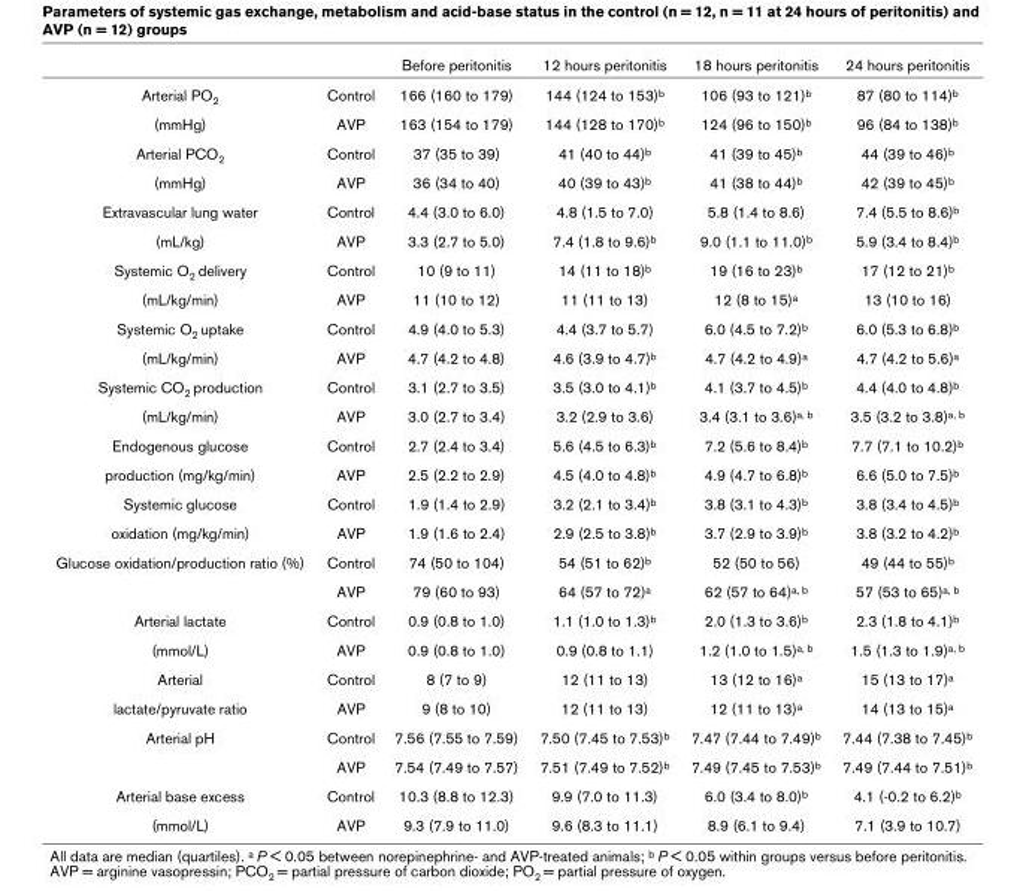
<table><thead><tr><td></td><td></td><td>Before peritonitis</td><td>12 hours peritonitis</td><td>18 hours peritonitis</td><td>24 hours peritonitis</td></tr></thead><tbody><tr><td>Arterial PO<sub>2</sub></td><td>Control</td><td>166 (160 to 179)</td><td>144 (124 to 153)<sup>b</sup></td><td>106 (93 to 121)<sup>b</sup></td><td>87 (80 to 114)<sup>b</sup></td></tr><tr><td>(mmHg)</td><td>AVP</td><td>163 (154 to 179)</td><td>144 (128 to 170)<sup>b</sup></td><td>124 (96 to 150)<sup>b</sup></td><td>96 (84 to 138)<sup>b</sup></td></tr><tr><td>Arterial PCO<sub>2</sub></td><td>Control</td><td>37 (35 to 39)</td><td>41 (40 to 44)<sup>b</sup></td><td>41 (39 to 45)<sup>b</sup></td><td>44 (39 to 46)<sup>b</sup></td></tr><tr><td>(mmHg)</td><td>AVP</td><td>36 (34 to 40)</td><td>40 (39 to 43)<sup>b</sup></td><td>41 (38 to 44)<sup>b</sup></td><td>42 (39 to 45)<sup>b</sup></td></tr><tr><td>Extravascular lung water</td><td>Control</td><td>4.4 (3.0 to 6.0)</td><td>4.8 (1.5 to 7.0)</td><td>5.8 (1.4 to 8.6)</td><td>7.4 (5.5 to 8.6)<sup>b</sup></td></tr><tr><td>(mL/kg)</td><td>AVP</td><td>3.3 (2.7 to 5.0)</td><td>7.4 (1.8 to 9.6)<sup>b</sup></td><td>9.0 (1.1 to 11.0)<sup>b</sup></td><td>5.9 (3.4 to 8.4)<sup>b</sup></td></tr><tr><td>Systemic O<sub>2</sub> delivery</td><td>Control</td><td>10 (9 to 11)</td><td>14 (11 to 18)<sup>b</sup></td><td>19 (16 to 23)<sup>b</sup></td><td>17 (12 to 21)<sup>b</sup></td></tr><tr><td>(mL/kg/min)</td><td>AVP</td><td>11 (10 to 12)</td><td>11 (11 to 13)</td><td>12 (8 to 15)<sup>a</sup></td><td>13 (10 to 16)</td></tr><tr><td>Systemic O<sub>2</sub> uptake</td><td>Control</td><td>4.9 (4.0 to 5.3)</td><td>4.4 (3.7 to 5.7)</td><td>6.0 (4.5 to 7.2)<sup>b</sup></td><td>6.0 (5.3 to 6.8)<sup>b</sup></td></tr><tr><td>(mL/kg/min)</td><td>AVP</td><td>4.7 (4.2 to 4.8)</td><td>4.6 (3.9 to 4.7)<sup>b</sup></td><td>4.7 (4.2 to 4.9)<sup>a</sup></td><td>4.7 (4.2 to 5.6)<sup>a</sup></td></tr><tr><td>Systemic CO<sub>2</sub> production</td><td>Control</td><td>3.1 (2.7 to 3.5)</td><td>3.5 (3.0 to 4.1)<sup>b</sup></td><td>4.1 (3.7 to 4.5)<sup>b</sup></td><td>4.4 (4.0 to 4.8)<sup>b</sup></td></tr><tr><td>(mL/kg/min)</td><td>AVP</td><td>3.0 (2.7 to 3.4)</td><td>3.2 (2.9 to 3.6)</td><td>3.4 (3.1 to 3.6)<sup>a, b</sup></td><td>3.5 (3.2 to 3.8)<sup>a, b</sup></td></tr><tr><td>Endogenous glucose</td><td>Control</td><td>2.7 (2.4 to 3.4)</td><td>5.6 (4.5 to 6.3)<sup>b</sup></td><td>7.2 (5.6 to 8.4)<sup>b</sup></td><td>7.7 (7.1 to 10.2)<sup>b</sup></td></tr><tr><td>production (mg/kg/min)</td><td>AVP</td><td>2.5 (2.2 to 2.9)</td><td>4.5 (4.0 to 4.8)<sup>b</sup></td><td>4.9 (4.7 to 6.8)<sup>b</sup></td><td>6.6 (5.0 to 7.5)<sup>b</sup></td></tr><tr><td>Systemic glucose</td><td>Control</td><td>1.9 (1.4 to 2.9)</td><td>3.2 (2.1 to 3.4)<sup>b</sup></td><td>3.8 (3.1 to 4.3)<sup>b</sup></td><td>3.8 (3.4 to 4.5)<sup>b</sup></td></tr><tr><td>oxidation (mg/kg/min)</td><td>AVP</td><td>1.9 (1.6 to 2.4)</td><td>2.9 (2.5 to 3.8)<sup>b</sup></td><td>3.7 (2.9 to 3.9)<sup>b</sup></td><td>3.8 (3.2 to 4.2)<sup>b</sup></td></tr><tr><td rowspan="2">Glucose oxidation/production ratio (%)</td><td>Control</td><td>74 (50 to 104)</td><td>54 (51 to 62)<sup>b</sup></td><td>52 (50 to 56)</td><td>49 (44 to 55)<sup>b</sup></td></tr><tr><td>AVP</td><td>79 (60 to 93)</td><td>64 (57 to 72)<sup>a</sup></td><td>62 (57 to 64)<sup>a, b</sup></td><td>57 (53 to 65)<sup>a, b</sup></td></tr><tr><td>Arterial lactate</td><td>Control</td><td>0.9 (0.8 to 1.0)</td><td>1.1 (1.0 to 1.3)<sup>b</sup></td><td>2.0 (1.3 to 3.6)<sup>b</sup></td><td>2.3 (1.8 to 4.1)<sup>b</sup></td></tr><tr><td>(mmol/L)</td><td>AVP</td><td>0.9 (0.8 to 1.0)</td><td>0.9 (0.8 to 1.1)</td><td>1.2 (1.0 to 1.5)<sup>a, b</sup></td><td>1.5 (1.3 to 1.9)<sup>a, b</sup></td></tr><tr><td>Arterial</td><td>Control</td><td>8 (7 to 9)</td><td>12 (11 to 13)</td><td>13 (12 to 16)<sup>a</sup></td><td>15 (13 to 17)<sup>a</sup></td></tr><tr><td>lactate/pyruvate ratio</td><td>AVP</td><td>9 (8 to 10)</td><td>12 (11 to 13)</td><td>12 (11 to 13)<sup>a</sup></td><td>14 (13 to 15)<sup>a</sup></td></tr><tr><td rowspan="2">Arterial pH</td><td>Control</td><td>7.56 (7.55 to 7.59)</td><td>7.50 (7.45 to 7.53)<sup>b</sup></td><td>7.47 (7.44 to 7.49)<sup>b</sup></td><td>7.44 (7.38 to 7.45)<sup>b</sup></td></tr><tr><td>AVP</td><td>7.54 (7.49 to 7.57)</td><td>7.51 (7.49 to 7.52)<sup>b</sup></td><td>7.49 (7.45 to 7.53)<sup>b</sup></td><td>7.49 (7.44 to 7.51)<sup>b</sup></td></tr><tr><td>Arterial base excess</td><td>Control</td><td>10.3 (8.8 to 12.3)</td><td>9.9 (7.0 to 11.3)</td><td>6.0 (3.4 to 8.0)<sup>b</sup></td><td>4.1 (-0.2 to 6.2)<sup>b</sup></td></tr><tr><td>(mmol/L)</td><td>AVP</td><td>9.3 (7.9 to 11.0)</td><td>9.6 (8.3 to 11.1)</td><td>8.9 (6.1 to 9.4)</td><td>7.1 (3.9 to 10.7)</td></tr></tbody></table>